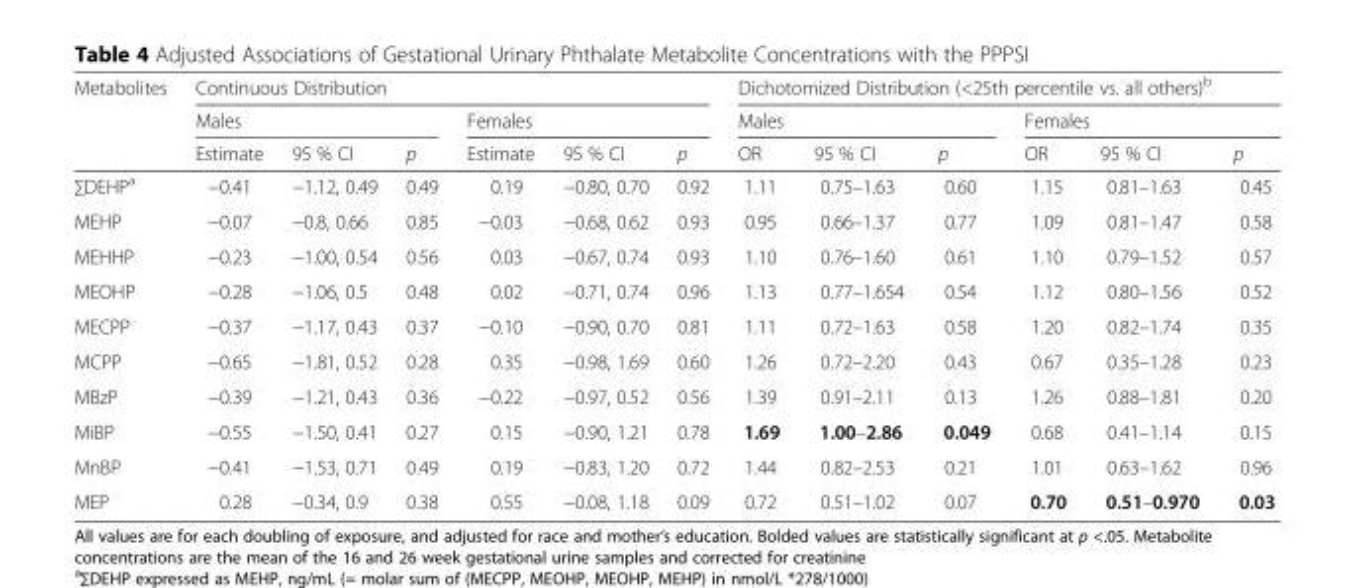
<table><thead><tr><td rowspan="3">Metabolites</td><td colspan="6">Continuous Distribution</td><td colspan="6">Dichotomized Distribution (&lt;25th percentile vs. all others)<sup>b</sup></td></tr><tr><td colspan="3">Males</td><td colspan="3">Females</td><td colspan="3">Males</td><td colspan="3">Females</td></tr><tr><td>Estimate</td><td>95 % CI</td><td>p</td><td>Estimate</td><td>95 % CI</td><td>p</td><td>OR</td><td>95 % CI</td><td>p</td><td>OR</td><td>95 % CI</td><td>p</td></tr></thead><tbody><tr><td>∑DEHP<sup>a</sup></td><td>−0.41</td><td>−1.12, 0.49</td><td>0.49</td><td>0.19</td><td>−0.80, 0.70</td><td>0.92</td><td>1.11</td><td>0.75–1.63</td><td>0.60</td><td>1.15</td><td>0.81–1.63</td><td>0.45</td></tr><tr><td>MEHP</td><td>−0.07</td><td>−0.8, 0.66</td><td>0.85</td><td>−0.03</td><td>−0.68, 0.62</td><td>0.93</td><td>0.95</td><td>0.66–1.37</td><td>0.77</td><td>1.09</td><td>0.81–1.47</td><td>0.58</td></tr><tr><td>MEHHP</td><td>−0.23</td><td>−1.00, 0.54</td><td>0.56</td><td>0.03</td><td>−0.67, 0.74</td><td>0.93</td><td>1.10</td><td>0.76–1.60</td><td>0.61</td><td>1.10</td><td>0.79–1.52</td><td>0.57</td></tr><tr><td>MEOHP</td><td>−0.28</td><td>−1.06, 0.5</td><td>0.48</td><td>0.02</td><td>−0.71, 0.74</td><td>0.96</td><td>1.13</td><td>0.77–1.654</td><td>0.54</td><td>1.12</td><td>0.80–1.56</td><td>0.52</td></tr><tr><td>MECPP</td><td>−0.37</td><td>−1.17, 0.43</td><td>0.37</td><td>−0.10</td><td>−0.90, 0.70</td><td>0.81</td><td>1.11</td><td>0.72–1.63</td><td>0.58</td><td>1.20</td><td>0.82–1.74</td><td>0.35</td></tr><tr><td>MCPP</td><td>−0.65</td><td>−1.81, 0.52</td><td>0.28</td><td>0.35</td><td>−0.98, 1.69</td><td>0.60</td><td>1.26</td><td>0.72–2.20</td><td>0.43</td><td>0.67</td><td>0.35–1.28</td><td>0.23</td></tr><tr><td>MBzP</td><td>−0.39</td><td>−1.21, 0.43</td><td>0.36</td><td>−0.22</td><td>−0.97, 0.52</td><td>0.56</td><td>1.39</td><td>0.91–2.11</td><td>0.13</td><td>1.26</td><td>0.88–1.81</td><td>0.20</td></tr><tr><td>MiBP</td><td>−0.55</td><td>−1.50, 0.41</td><td>0.27</td><td>0.15</td><td>−0.90, 1.21</td><td>0.78</td><td>1.69</td><td>1.00–2.86</td><td>0.049</td><td>0.68</td><td>0.41–1.14</td><td>0.15</td></tr><tr><td>MnBP</td><td>−0.41</td><td>−1.53, 0.71</td><td>0.49</td><td>0.19</td><td>−0.83, 1.20</td><td>0.72</td><td>1.44</td><td>0.82–2.53</td><td>0.21</td><td>1.01</td><td>0.63–1.62</td><td>0.96</td></tr><tr><td>MEP</td><td>0.28</td><td>−0.34, 0.9</td><td>0.38</td><td>0.55</td><td>−0.08, 1.18</td><td>0.09</td><td>0.72</td><td>0.51–1.02</td><td>0.07</td><td>0.70</td><td>0.51–0.970</td><td>0.03</td></tr></tbody></table>